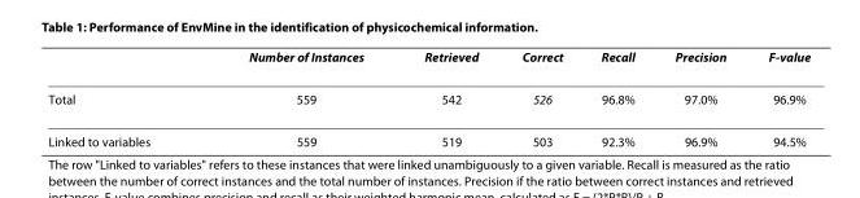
<table><thead><tr><td></td><td>Number of Instances</td><td>Retrieved</td><td>Correct</td><td>Recall</td><td>Precision</td><td>F-value</td></tr></thead><tbody><tr><td>Total</td><td>559</td><td>542</td><td>526</td><td>96.8%</td><td>97.0%</td><td>96.9%</td></tr><tr><td>Linked to variables</td><td>559</td><td>519</td><td>503</td><td>92.3%</td><td>96.9%</td><td>94.5%</td></tr></tbody></table>